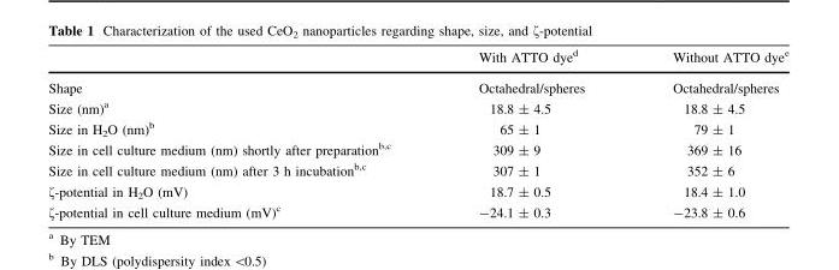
<table><thead><tr><td></td><td>With ATTO dye<sup>d</sup></td><td>Without ATTO dye<sup>e</sup></td></tr></thead><tbody><tr><td>Shape</td><td>Octahedral/spheres</td><td>Octahedral/spheres</td></tr><tr><td>Size (nm)<sup>a</sup></td><td>18.8 ± 4.5</td><td>18.8 ± 4.5</td></tr><tr><td>Size in H<sub>2</sub>O (nm)<sup>b</sup></td><td>65 ± 1</td><td>79 ± 1</td></tr><tr><td>Size in cell culture medium (nm) shortly after preparation<sup>b,c</sup></td><td>309 ± 9</td><td>369 ± 16</td></tr><tr><td>Size in cell culture medium (nm) after 3 h incubation<sup>b,c</sup></td><td>307 ± 1</td><td>352 ± 6</td></tr><tr><td>ζ-potential in H<sub>2</sub>O (mV)</td><td>18.7 ± 0.5</td><td>18.4 ± 1.0</td></tr><tr><td>ζ-potential in cell culture medium (mV)<sup>c</sup></td><td>-24.1 ± 0.3</td><td>-23.8 ± 0.6</td></tr></tbody></table>